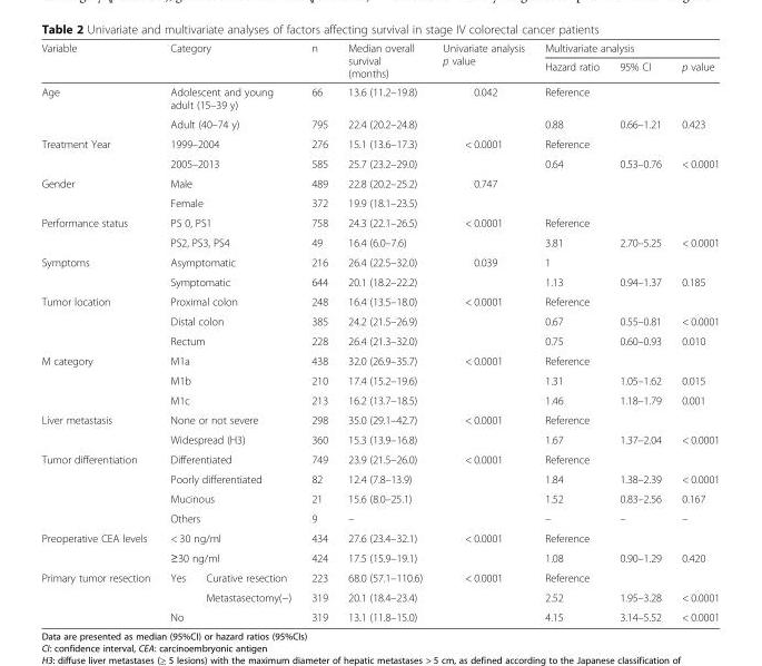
<table><thead><tr><td rowspan="2">Variable</td><td rowspan="2" colspan="2">Category</td><td rowspan="2">n</td><td rowspan="2">Median overall survival (months)</td><td rowspan="2">Univariate analysis p value</td><td colspan="3">Multivariate analysis</td></tr><tr><td>Hazard ratio</td><td>95% CI</td><td>p value</td></tr></thead><tbody><tr><td rowspan="2">Age</td><td colspan="2">Adolescent and young adult (15–39 y)</td><td>66</td><td>13.6 (11.2–19.8)</td><td>0.042</td><td>Reference</td><td colspan="2"></td></tr><tr><td colspan="2">Adult (40–74 y)</td><td>795</td><td>22.4 (20.2–24.8)</td><td></td><td>0.88</td><td>0.66–1.21</td><td>0.423</td></tr><tr><td rowspan="2">Treatment Year</td><td colspan="2">1999–2004</td><td>276</td><td>15.1 (13.6–17.3)</td><td>&lt; 0.0001</td><td>Reference</td><td colspan="2"></td></tr><tr><td colspan="2">2005–2013</td><td>585</td><td>25.7 (23.2–29.0)</td><td></td><td>0.64</td><td>0.53–0.76</td><td>&lt; 0.0001</td></tr><tr><td rowspan="2">Gender</td><td colspan="2">Male</td><td>489</td><td>22.8 (20.2–25.2)</td><td>0.747</td><td colspan="3"></td></tr><tr><td colspan="2">Female</td><td>372</td><td>19.9 (18.1–23.5)</td><td colspan="4"></td></tr><tr><td rowspan="2">Performance status</td><td colspan="2">PS 0, PS1</td><td>758</td><td>24.3 (22.1–26.5)</td><td>&lt; 0.0001</td><td>Reference</td><td colspan="2"></td></tr><tr><td colspan="2">PS2, PS3, PS4</td><td>49</td><td>16.4 (6.0–7.6)</td><td></td><td>3.81</td><td>2.70–5.25</td><td>&lt; 0.0001</td></tr><tr><td rowspan="2">Symptoms</td><td colspan="2">Asymptomatic</td><td>216</td><td>26.4 (22.5–32.0)</td><td>0.039</td><td>1</td><td colspan="2"></td></tr><tr><td colspan="2">Symptomatic</td><td>644</td><td>20.1 (18.2–22.2)</td><td></td><td>1.13</td><td>0.94–1.37</td><td>0.185</td></tr><tr><td rowspan="3">Tumor location</td><td colspan="2">Proximal colon</td><td>248</td><td>16.4 (13.5–18.0)</td><td>&lt; 0.0001</td><td>Reference</td><td colspan="2"></td></tr><tr><td colspan="2">Distal colon</td><td>385</td><td>24.2 (21.5–26.9)</td><td rowspan="2"></td><td>0.67</td><td>0.55–0.81</td><td>&lt; 0.0001</td></tr><tr><td colspan="2">Rectum</td><td>228</td><td>26.4 (21.3–32.0)</td><td>0.75</td><td>0.60–0.93</td><td>0.010</td></tr><tr><td rowspan="3">M category</td><td colspan="2">M1a</td><td>438</td><td>32.0 (26.9–35.7)</td><td>&lt; 0.0001</td><td>Reference</td><td colspan="2"></td></tr><tr><td colspan="2">M1b</td><td>210</td><td>17.4 (15.2–19.6)</td><td rowspan="2"></td><td>1.31</td><td>1.05–1.62</td><td>0.015</td></tr><tr><td colspan="2">M1c</td><td>213</td><td>16.2 (13.7–18.5)</td><td>1.46</td><td>1.18–1.79</td><td>0.001</td></tr><tr><td rowspan="2">Liver metastasis</td><td colspan="2">None or not severe</td><td>298</td><td>35.0 (29.1–42.7)</td><td>&lt; 0.0001</td><td>Reference</td><td colspan="2"></td></tr><tr><td colspan="2">Widespread (H3)</td><td>360</td><td>15.3 (13.9–16.8)</td><td></td><td>1.67</td><td>1.37–2.04</td><td>&lt; 0.0001</td></tr><tr><td rowspan="4">Tumor differentiation</td><td colspan="2">Differentiated</td><td>749</td><td>23.9 (21.5–26.0)</td><td>&lt; 0.0001</td><td>Reference</td><td colspan="2"></td></tr><tr><td colspan="2">Poorly differentiated</td><td>82</td><td>12.4 (7.8–13.9)</td><td rowspan="3"></td><td>1.84</td><td>1.38–2.39</td><td>&lt; 0.0001</td></tr><tr><td colspan="2">Mucinous</td><td>21</td><td>15.6 (8.0–25.1)</td><td>1.52</td><td>0.83–2.56</td><td>0.167</td></tr><tr><td colspan="2">Others</td><td>9</td><td>–</td><td>–</td><td>–</td><td>–</td></tr><tr><td rowspan="2">Preoperative CEA levels</td><td colspan="2">&lt; 30 ng/ml</td><td>434</td><td>27.6 (23.4–32.1)</td><td>&lt; 0.0001</td><td>Reference</td><td></td><td></td></tr><tr><td colspan="2">≥30 ng/ml</td><td>424</td><td>17.5 (15.9–19.1)</td><td></td><td>1.08</td><td>0.90–1.29</td><td>0.420</td></tr><tr><td rowspan="3">Primary tumor resection</td><td rowspan="2">Yes</td><td>Curative resection</td><td>223</td><td>68.0 (57.1–110.6)</td><td>&lt; 0.0001</td><td>Reference</td><td></td><td></td></tr><tr><td>Metastasectomy(−)</td><td>319</td><td>20.1 (18.4–23.4)</td><td></td><td>2.52</td><td>1.95–3.28</td><td>&lt; 0.0001</td></tr><tr><td colspan="2">No</td><td>319</td><td>13.1 (11.8–15.0)</td><td></td><td>4.15</td><td>3.14–5.52</td><td>&lt; 0.0001</td></tr></tbody></table>